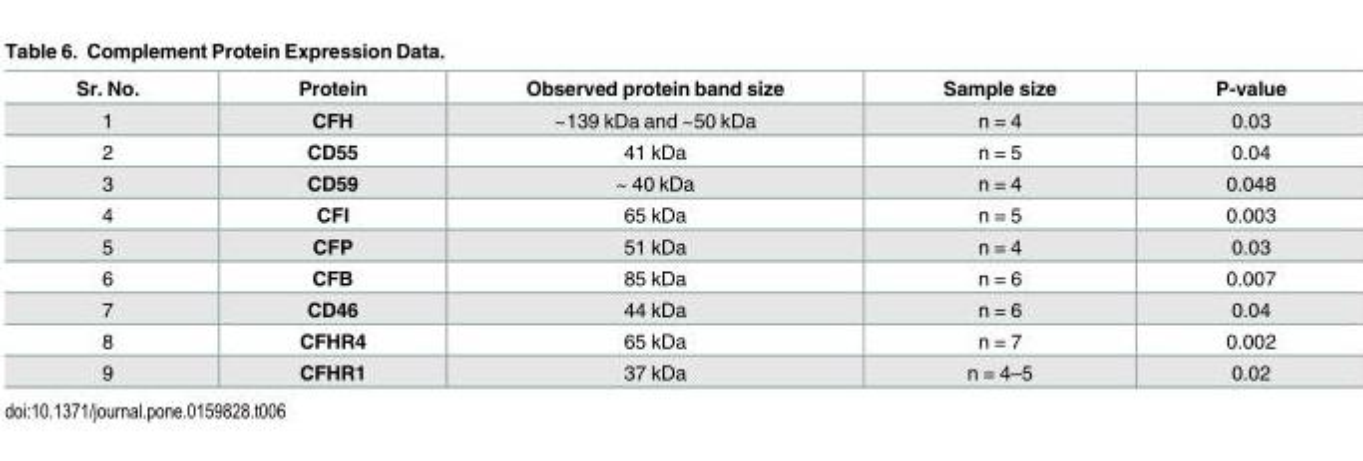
<table><thead><tr><td>Sr. No.</td><td>Protein</td><td>Observed protein band size</td><td>Sample size</td><td>P-value</td></tr></thead><tbody><tr><td>1</td><td>CFH</td><td>~139 kDa and ~50 kDa</td><td>n = 4</td><td>0.03</td></tr><tr><td>2</td><td>CD55</td><td>41 kDa</td><td>n = 5</td><td>0.04</td></tr><tr><td>3</td><td>CD59</td><td>~ 40 kDa</td><td>n = 4</td><td>0.048</td></tr><tr><td>4</td><td>CFI</td><td>65 kDa</td><td>n = 5</td><td>0.003</td></tr><tr><td>5</td><td>CFP</td><td>51 kDa</td><td>n = 4</td><td>0.03</td></tr><tr><td>6</td><td>CFB</td><td>85 kDa</td><td>n = 6</td><td>0.007</td></tr><tr><td>7</td><td>CD46</td><td>44 kDa</td><td>n = 6</td><td>0.04</td></tr><tr><td>8</td><td>CFHR4</td><td>65 kDa</td><td>n = 7</td><td>0.002</td></tr><tr><td>9</td><td>CFHR1</td><td>37 kDa</td><td>n = 4–5</td><td>0.02</td></tr></tbody></table>